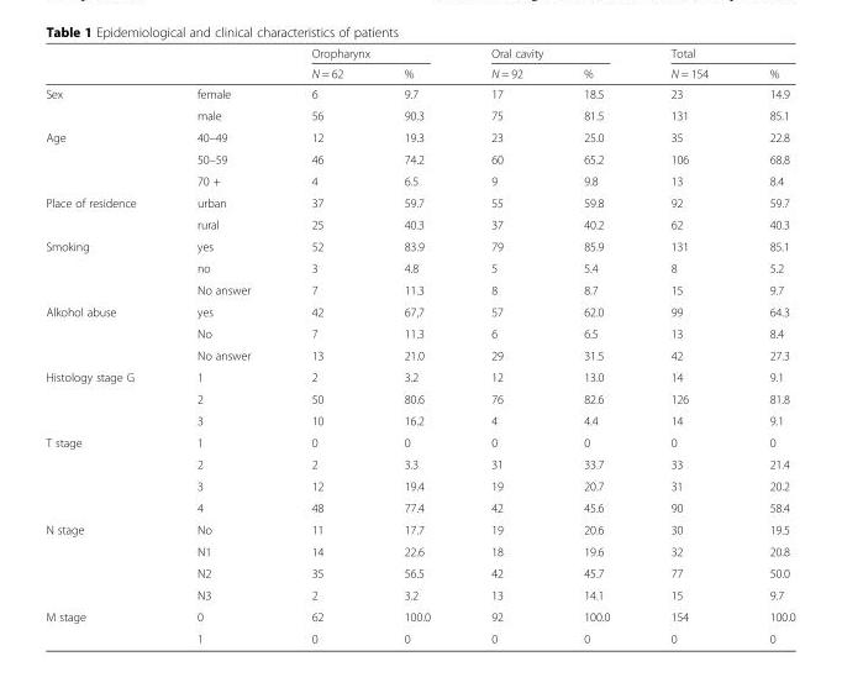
<table><thead><tr><td rowspan="2"></td><td rowspan="2"></td><td colspan="2">Oropharynx</td><td colspan="2">Oral cavity</td><td colspan="2">Total</td></tr><tr><td>N = 62</td><td>%</td><td>N = 92</td><td>%</td><td>N = 154</td><td>%</td></tr></thead><tbody><tr><td rowspan="2">Sex</td><td>female</td><td>6</td><td>9.7</td><td>17</td><td>18.5</td><td>23</td><td>14.9</td></tr><tr><td>male</td><td>56</td><td>90.3</td><td>75</td><td>81.5</td><td>131</td><td>85.1</td></tr><tr><td rowspan="3">Age</td><td>40–49</td><td>12</td><td>19.3</td><td>23</td><td>25.0</td><td>35</td><td>22.8</td></tr><tr><td>50–59</td><td>46</td><td>74.2</td><td>60</td><td>65.2</td><td>106</td><td>68.8</td></tr><tr><td>70 +</td><td>4</td><td>6.5</td><td>9</td><td>9.8</td><td>13</td><td>8.4</td></tr><tr><td rowspan="2">Place of residence</td><td>urban</td><td>37</td><td>59.7</td><td>55</td><td>59.8</td><td>92</td><td>59.7</td></tr><tr><td>rural</td><td>25</td><td>40.3</td><td>37</td><td>40.2</td><td>62</td><td>40.3</td></tr><tr><td rowspan="3">Smoking</td><td>yes</td><td>52</td><td>83.9</td><td>79</td><td>85.9</td><td>131</td><td>85.1</td></tr><tr><td>no</td><td>3</td><td>4.8</td><td>5</td><td>5.4</td><td>8</td><td>5.2</td></tr><tr><td>No answer</td><td>7</td><td>11.3</td><td>8</td><td>8.7</td><td>15</td><td>9.7</td></tr><tr><td rowspan="3">Alkohol abuse</td><td>yes</td><td>42</td><td>67,7</td><td>57</td><td>62.0</td><td>99</td><td>64.3</td></tr><tr><td>No</td><td>7</td><td>11.3</td><td>6</td><td>6.5</td><td>13</td><td>8.4</td></tr><tr><td>No answer</td><td>13</td><td>21.0</td><td>29</td><td>31.5</td><td>42</td><td>27.3</td></tr><tr><td rowspan="3">Histology stage G</td><td>1</td><td>2</td><td>3.2</td><td>12</td><td>13.0</td><td>14</td><td>9.1</td></tr><tr><td>2</td><td>50</td><td>80.6</td><td>76</td><td>82.6</td><td>126</td><td>81.8</td></tr><tr><td>3</td><td>10</td><td>16.2</td><td>4</td><td>4.4</td><td>14</td><td>9.1</td></tr><tr><td rowspan="4">T stage</td><td>1</td><td>0</td><td>0</td><td>0</td><td>0</td><td>0</td><td>0</td></tr><tr><td>2</td><td>2</td><td>3.3</td><td>31</td><td>33.7</td><td>33</td><td>21.4</td></tr><tr><td>3</td><td>12</td><td>19.4</td><td>19</td><td>20.7</td><td>31</td><td>20.2</td></tr><tr><td>4</td><td>48</td><td>77.4</td><td>42</td><td>45.6</td><td>90</td><td>58.4</td></tr><tr><td rowspan="4">N stage</td><td>No</td><td>11</td><td>17.7</td><td>19</td><td>20.6</td><td>30</td><td>19.5</td></tr><tr><td>N1</td><td>14</td><td>22.6</td><td>18</td><td>19.6</td><td>32</td><td>20.8</td></tr><tr><td>N2</td><td>35</td><td>56.5</td><td>42</td><td>45.7</td><td>77</td><td>50.0</td></tr><tr><td>N3</td><td>2</td><td>3.2</td><td>13</td><td>14.1</td><td>15</td><td>9.7</td></tr><tr><td rowspan="2">M stage</td><td>0</td><td>62</td><td>100.0</td><td>92</td><td>100.0</td><td>154</td><td>100.0</td></tr><tr><td>1</td><td>0</td><td>0</td><td>0</td><td>0</td><td>0</td><td>0</td></tr></tbody></table>